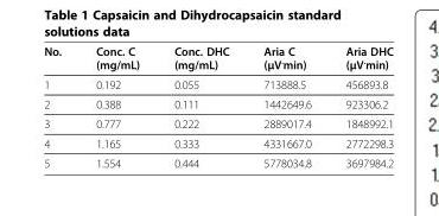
<table><thead><tr><td>No.</td><td>Conc. C (mg/mL)</td><td>Conc. DHC (mg/mL)</td><td>Aria C (μV<sup>.</sup>min)</td><td>Aria DHC (μV<sup>.</sup>min)</td></tr></thead><tbody><tr><td>1</td><td>0.192</td><td>0.055</td><td>713888.5</td><td>456893.8</td></tr><tr><td>2</td><td>0.388</td><td>0.111</td><td>1442649.6</td><td>923306.2</td></tr><tr><td>3</td><td>0.777</td><td>0.222</td><td>2889017.4</td><td>1848992.1</td></tr><tr><td>4</td><td>1.165</td><td>0.333</td><td>4331667.0</td><td>2772298.3</td></tr><tr><td>5</td><td>1.554</td><td>0.444</td><td>5778034.8</td><td>3697984.2</td></tr></tbody></table>